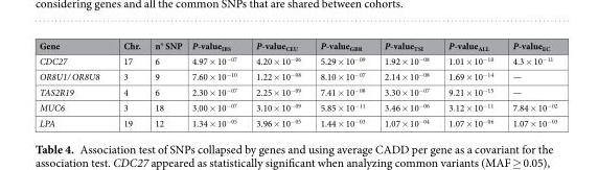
<table><thead><tr><td>Gene</td><td>Chr.</td><td>n° SNP</td><td>P-value<sub>IBS</sub></td><td>P-value<sub>CEU</sub></td><td>P-value<sub>GBR</sub></td><td>P-value<sub>TSI</sub></td><td>P-value<sub>ALL</sub></td><td>P-value<sub>EC</sub></td></tr></thead><tbody><tr><td>CDC27</td><td>17</td><td>6</td><td>4.97 × 10<sup>−07</sup></td><td>4.20 × 10<sup>−06</sup></td><td>5.29 × 10<sup>−09</sup></td><td>1.92 × 10<sup>−08</sup></td><td>1.01 × 10<sup>−10</sup></td><td>4.3 × 10<sup>−11</sup></td></tr><tr><td>OR8U1/ OR8U8</td><td>3</td><td>9</td><td>7.60 × 10<sup>−10</sup></td><td>1.22 × 10<sup>−08</sup></td><td>8.10 × 10<sup>−07</sup></td><td>2.14 × 10<sup>−08</sup></td><td>1.69 × 10<sup>−14</sup></td><td>—</td></tr><tr><td>TAS2R19</td><td>4</td><td>6</td><td>2.30 × 10<sup>−07</sup></td><td>2.25 × 10<sup>−09</sup></td><td>7.41 × 10<sup>−08</sup></td><td>3.30 × 10<sup>−07</sup></td><td>9.21 × 10<sup>−15</sup></td><td>—</td></tr><tr><td>MUC6</td><td>3</td><td>18</td><td>3.00 × 10<sup>−07</sup></td><td>3.10 × 10<sup>−09</sup></td><td>5.85 × 10<sup>−11</sup></td><td>3.46 × 10<sup>−06</sup></td><td>3.12 × 10<sup>−11</sup></td><td>7.84 × 10<sup>−02</sup></td></tr><tr><td>LPA</td><td>19</td><td>12</td><td>1.34 × 10<sup>−05</sup></td><td>3.96 × 10<sup>−05</sup></td><td>1.44 × 10<sup>−03</sup></td><td>1.07 × 10<sup>−04</sup></td><td>1.07 × 10<sup>−06</sup></td><td>1.07 × 10<sup>−03</sup></td></tr></tbody></table>